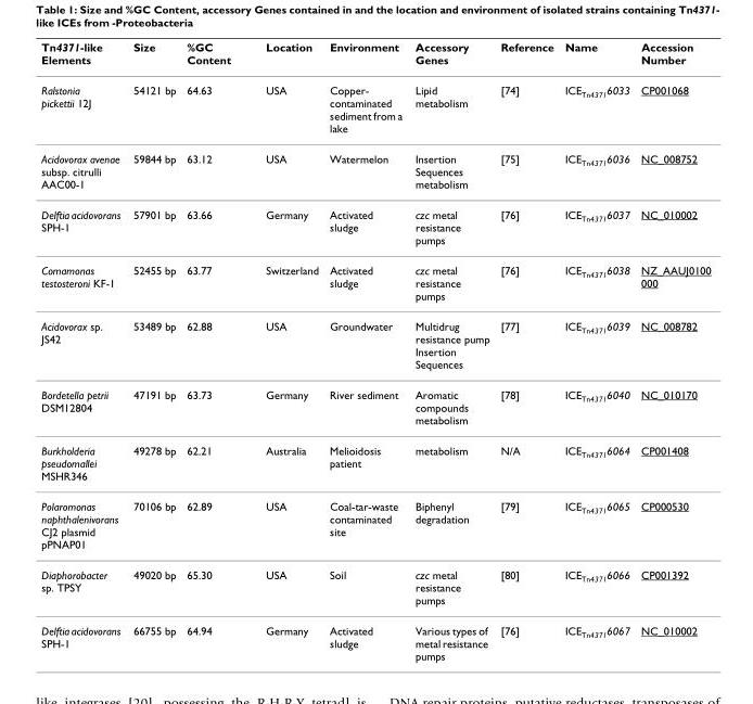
<table><thead><tr><td>Tn4371-like Elements</td><td>Size</td><td>%GC Content</td><td>Location</td><td>Environment</td><td>Accessory Genes</td><td>Reference</td><td>Name</td><td>Accession Number</td></tr></thead><tbody><tr><td>Ralstonia pickettii 12J</td><td>54121 bp</td><td>64.63</td><td>USA</td><td>Copper- contaminated sediment from a lake</td><td>Lipid metabolism</td><td>[74]</td><td>ICE<sub>Tn4371</sub>6033</td><td>CP001068</td></tr><tr><td>Acidovorax avenae subsp. citrulli AAC00-1</td><td>59844 bp</td><td>63.12</td><td>USA</td><td>Watermelon</td><td>Insertion Sequences metabolism</td><td>[75]</td><td>ICE<sub>Tn4371</sub>6036</td><td>NC_008752</td></tr><tr><td>Delftia acidovorans SPH-1</td><td>57901 bp</td><td>63.66</td><td>Germany</td><td>Activated sludge</td><td>czc metal resistance pumps</td><td>[76]</td><td>ICE<sub>Tn4371</sub>6037</td><td>NC_010002</td></tr><tr><td>Comamonas testosteroni KF-1</td><td>52455 bp</td><td>63.77</td><td>Switzerland</td><td>Activated sludge</td><td>czc metal resistance pumps</td><td>[76]</td><td>ICE<sub>Tn4371</sub>6038</td><td>NZ_AAUJ0100 000</td></tr><tr><td>Acidovorax sp. JS42</td><td>53489 bp</td><td>62.88</td><td>USA</td><td>Groundwater</td><td>Multidrug resistance pump Insertion Sequences</td><td>[77]</td><td>ICE<sub>Tn4371</sub>6039</td><td>NC_008782</td></tr><tr><td>Bordetella petrii DSM12804</td><td>47191 bp</td><td>63.73</td><td>Germany</td><td>River sediment</td><td>Aromatic compounds metabolism</td><td>[78]</td><td>ICE<sub>Tn4371</sub>6040</td><td>NC_010170</td></tr><tr><td>Burkholderia pseudomallei MSHR346</td><td>49278 bp</td><td>62.21</td><td>Australia</td><td>Melioidosis patient</td><td>metabolism</td><td>N/A</td><td>ICE<sub>Tn4371</sub>6064</td><td>CP001408</td></tr><tr><td>Polaromonas naphthalenivorans CJ2 plasmid pPNAP01</td><td>70106 bp</td><td>62.89</td><td>USA</td><td>Coal-tar-waste contaminated site</td><td>Biphenyl degradation</td><td>[79]</td><td>ICE<sub>Tn4371</sub>6065</td><td>CP000530</td></tr><tr><td>Diaphorobacter sp. TPSY</td><td>49020 bp</td><td>65.30</td><td>USA</td><td>Soil</td><td>czc metal resistance pumps</td><td>[80]</td><td>ICE<sub>Tn4371</sub>6066</td><td>CP001392</td></tr><tr><td>Delftia acidovorans SPH-1</td><td>66755 bp</td><td>64.94</td><td>Germany</td><td>Activated sludge</td><td>Various types of metal resistance pumps</td><td>[76]</td><td>ICE<sub>Tn4371</sub>6067</td><td>NC_010002</td></tr></tbody></table>